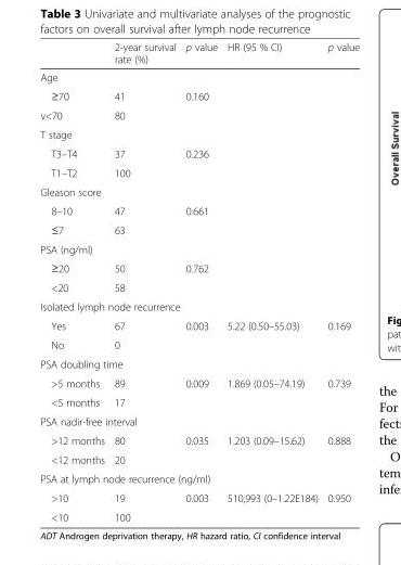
<table><thead><tr><td></td><td>2-year survival rate (%)</td><td>p value</td><td>HR (95 % CI)</td><td>p value</td></tr></thead><tbody><tr><td colspan="5">Age</td></tr><tr><td>≥70</td><td>41</td><td>0.160</td><td></td><td></td></tr><tr><td>v&lt;70</td><td>80</td><td></td><td></td><td></td></tr><tr><td colspan="5">T stage</td></tr><tr><td>T3–T4</td><td>37</td><td>0.236</td><td></td><td></td></tr><tr><td>T1–T2</td><td>100</td><td></td><td></td><td></td></tr><tr><td colspan="5">Gleason score</td></tr><tr><td>8–10</td><td>47</td><td>0.661</td><td></td><td></td></tr><tr><td>≤7</td><td>63</td><td></td><td></td><td></td></tr><tr><td colspan="5">PSA (ng/ml)</td></tr><tr><td>≥20</td><td>50</td><td>0.762</td><td></td><td></td></tr><tr><td>&lt;20</td><td>58</td><td></td><td></td><td></td></tr><tr><td colspan="5">Isolated lymph node recurrence</td></tr><tr><td>Yes</td><td>67</td><td>0.003</td><td>5.22 (0.50–55.03)</td><td>0.169</td></tr><tr><td>No</td><td>0</td><td></td><td></td><td></td></tr><tr><td colspan="5">PSA doubling time</td></tr><tr><td>&gt;5 months</td><td>89</td><td>0.009</td><td>1.869 (0.05–74.19)</td><td>0.739</td></tr><tr><td>&lt;5 months</td><td>17</td><td></td><td></td><td></td></tr><tr><td colspan="5">PSA nadir-free interval</td></tr><tr><td>&gt;12 months</td><td>80</td><td>0.035</td><td>1.203 (0.09–15.62)</td><td>0.888</td></tr><tr><td>&lt;12 months</td><td>20</td><td></td><td></td><td></td></tr><tr><td colspan="5">PSA at lymph node recurrence (ng/ml)</td></tr><tr><td>&gt;10</td><td>19</td><td>0.003</td><td>510,993 (0–1.22E184)</td><td>0.950</td></tr><tr><td>&lt;10</td><td>100</td><td></td><td></td><td></td></tr></tbody></table>